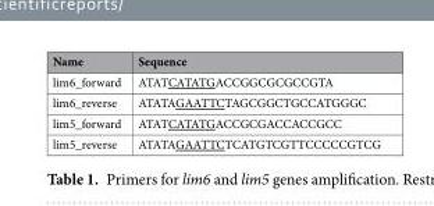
<table><thead><tr><td>Name</td><td>Sequence</td></tr></thead><tbody><tr><td>lim6_forward</td><td>ATATCATATGACCGGCGCGCCGTA</td></tr><tr><td>lim6_reverse</td><td>ATATAGAATTCTAGCGGCTGCCATGGGC</td></tr><tr><td>lim5_forward</td><td>ATATCATATGACCGCGACCACCGCC</td></tr><tr><td>lim5_reverse</td><td>ATATAGAATTCTCATGTCGTTCCCCCGTCG</td></tr></tbody></table>